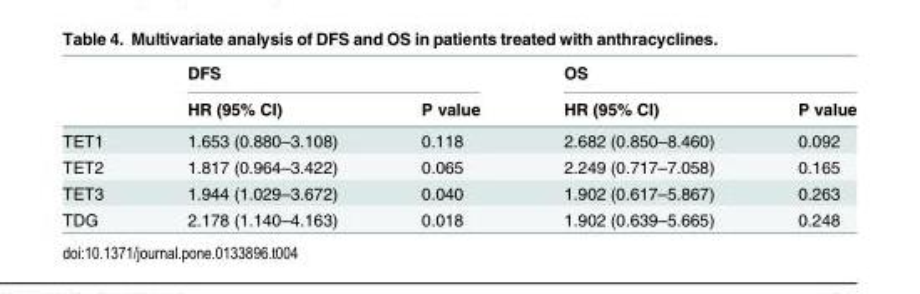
<table><thead><tr><td rowspan="2"></td><td colspan="2">DFS</td><td colspan="2">OS</td></tr><tr><td>HR (95% CI)</td><td>P value</td><td>HR (95% CI)</td><td>P value</td></tr></thead><tbody><tr><td>TET1</td><td>1.653 (0.880–3.108)</td><td>0.118</td><td>2.682 (0.850–8.460)</td><td>0.092</td></tr><tr><td>TET2</td><td>1.817 (0.964–3.422)</td><td>0.065</td><td>2.249 (0.717–7.058)</td><td>0.165</td></tr><tr><td>TET3</td><td>1.944 (1.029–3.672)</td><td>0.040</td><td>1.902 (0.617–5.867)</td><td>0.263</td></tr><tr><td>TDG</td><td>2.178 (1.140–4.163)</td><td>0.018</td><td>1.902 (0.639–5.665)</td><td>0.248</td></tr></tbody></table>